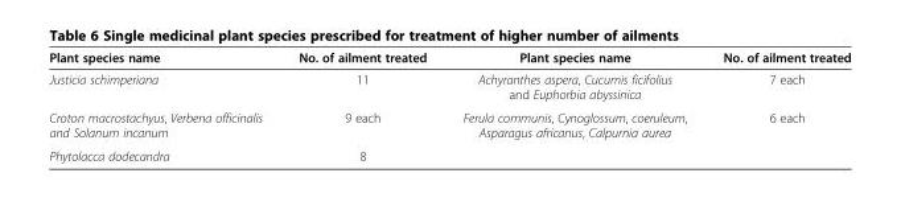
<table><thead><tr><td>Plant species name</td><td>No. of ailment treated</td><td>Plant species name</td><td>No. of ailment treated</td></tr></thead><tbody><tr><td>Justicia schimperiana</td><td>11</td><td>Achyranthes aspera, Cucumis ficifolius and Euphorbia abyssinica</td><td>7 each</td></tr><tr><td>Croton macrostachyus, Verbena officinalis and Solanum incanum</td><td>9 each</td><td>Ferula communis, Cynoglossum, coeruleum, Asparagus africanus, Calpurnia aurea</td><td>6 each</td></tr><tr><td>Phytolacca dodecandra</td><td>8</td><td colspan="2"></td></tr></tbody></table>